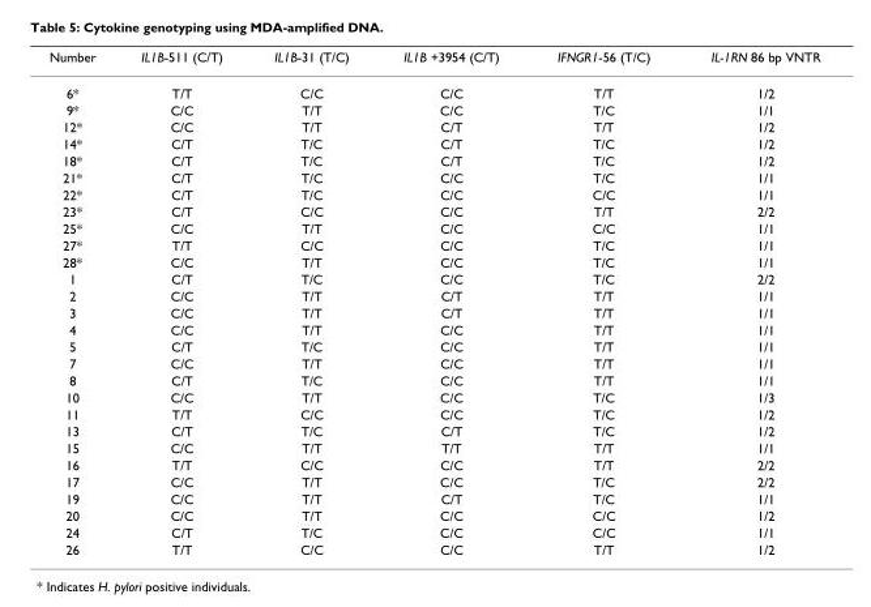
<table><thead><tr><td>Number</td><td>IL1B-511 (C/T)</td><td>IL1B-31 (T/C)</td><td>IL1B +3954 (C/T)</td><td>IFNGR1-56 (T/C)</td><td>IL-1RN 86 bp VNTR</td></tr></thead><tbody><tr><td>6*</td><td>T/T</td><td>C/C</td><td>C/C</td><td>T/T</td><td>1/2</td></tr><tr><td>9*</td><td>C/C</td><td>T/T</td><td>C/C</td><td>T/C</td><td>1/1</td></tr><tr><td>12*</td><td>C/C</td><td>T/T</td><td>C/T</td><td>T/T</td><td>1/2</td></tr><tr><td>14*</td><td>C/T</td><td>T/C</td><td>C/T</td><td>T/C</td><td>1/2</td></tr><tr><td>18*</td><td>C/T</td><td>T/C</td><td>C/T</td><td>T/C</td><td>1/2</td></tr><tr><td>21*</td><td>C/T</td><td>T/C</td><td>C/C</td><td>T/C</td><td>1/1</td></tr><tr><td>22*</td><td>C/T</td><td>T/C</td><td>C/C</td><td>C/C</td><td>1/1</td></tr><tr><td>23*</td><td>C/T</td><td>C/C</td><td>C/C</td><td>T/T</td><td>2/2</td></tr><tr><td>25*</td><td>C/C</td><td>T/T</td><td>C/C</td><td>C/C</td><td>1/1</td></tr><tr><td>27*</td><td>T/T</td><td>C/C</td><td>C/C</td><td>T/C</td><td>1/1</td></tr><tr><td>28*</td><td>C/C</td><td>T/T</td><td>C/C</td><td>T/C</td><td>1/1</td></tr><tr><td>1</td><td>C/T</td><td>T/C</td><td>C/C</td><td>T/C</td><td>2/2</td></tr><tr><td>2</td><td>C/C</td><td>T/T</td><td>C/T</td><td>T/T</td><td>1/1</td></tr><tr><td>3</td><td>C/C</td><td>T/T</td><td>C/T</td><td>T/T</td><td>1/1</td></tr><tr><td>4</td><td>C/C</td><td>T/T</td><td>C/C</td><td>T/T</td><td>1/1</td></tr><tr><td>5</td><td>C/T</td><td>T/C</td><td>C/C</td><td>T/T</td><td>1/1</td></tr><tr><td>7</td><td>C/C</td><td>T/T</td><td>C/C</td><td>T/T</td><td>1/1</td></tr><tr><td>8</td><td>C/T</td><td>T/C</td><td>C/C</td><td>T/T</td><td>1/1</td></tr><tr><td>10</td><td>C/C</td><td>T/T</td><td>C/C</td><td>T/C</td><td>1/3</td></tr><tr><td>11</td><td>T/T</td><td>C/C</td><td>C/C</td><td>T/C</td><td>1/2</td></tr><tr><td>13</td><td>C/T</td><td>T/C</td><td>C/T</td><td>T/C</td><td>1/2</td></tr><tr><td>15</td><td>C/C</td><td>T/T</td><td>T/T</td><td>T/T</td><td>1/1</td></tr><tr><td>16</td><td>T/T</td><td>C/C</td><td>C/C</td><td>T/T</td><td>2/2</td></tr><tr><td>17</td><td>C/C</td><td>T/T</td><td>C/C</td><td>T/C</td><td>2/2</td></tr><tr><td>19</td><td>C/C</td><td>T/T</td><td>C/T</td><td>T/C</td><td>1/1</td></tr><tr><td>20</td><td>C/C</td><td>T/T</td><td>C/C</td><td>C/C</td><td>1/2</td></tr><tr><td>24</td><td>C/T</td><td>T/C</td><td>C/C</td><td>C/C</td><td>1/1</td></tr><tr><td>26</td><td>T/T</td><td>C/C</td><td>C/C</td><td>T/T</td><td>1/2</td></tr></tbody></table>